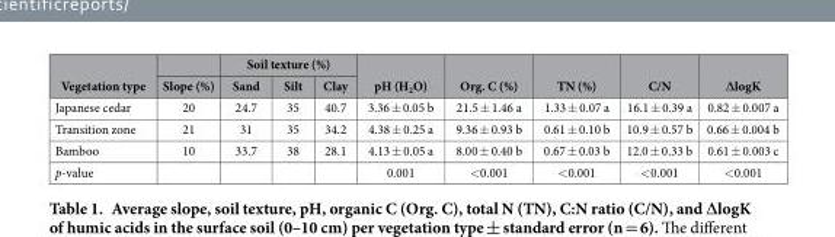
<table><thead><tr><td rowspan="2">Vegetation type</td><td rowspan="2">Slope (%)</td><td colspan="3">Soil texture (%)</td><td rowspan="2">pH (H<sub>2</sub>O)</td><td rowspan="2">Org. C (%)</td><td rowspan="2">TN (%)</td><td rowspan="2">C/N</td><td rowspan="2">∆logK</td></tr><tr><td>Sand</td><td>Silt</td><td>Clay</td></tr></thead><tbody><tr><td>Japanese cedar</td><td>20</td><td>24.7</td><td>35</td><td>40.7</td><td>3.36 ± 0.05 b</td><td>21.5 ± 1.46 a</td><td>1.33 ± 0.07 a</td><td>16.1 ± 0.39 a</td><td>0.82 ± 0.007 a</td></tr><tr><td>Transition zone</td><td>21</td><td>31</td><td>35</td><td>34.2</td><td>4.38 ± 0.25 a</td><td>9.36 ± 0.93 b</td><td>0.61 ± 0.10 b</td><td>10.9 ± 0.57 b</td><td>0.66 ± 0.004 b</td></tr><tr><td>Bamboo</td><td>10</td><td>33.7</td><td>38</td><td>28.1</td><td>4.13 ± 0.05 a</td><td>8.00 ± 0.40 b</td><td>0.67 ± 0.03 b</td><td>12.0 ± 0.33 b</td><td>0.61 ± 0.003 c</td></tr><tr><td>p-value</td><td></td><td></td><td></td><td></td><td>0.001</td><td>&lt; 0.001</td><td>&lt; 0.001</td><td>&lt; 0.001</td><td>&lt; 0.001</td></tr></tbody></table>